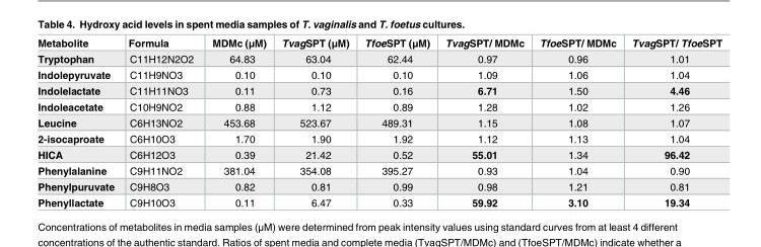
<table><thead><tr><td>Metabolite</td><td>Formula</td><td>MDMc (μM)</td><td>TvagSPT (μM)</td><td>TfoeSPT (μM)</td><td>TvagSPT/ MDMc</td><td>TfoeSPT/ MDMc</td><td>TvagSPT/ TfoeSPT</td></tr></thead><tbody><tr><td>Tryptophan</td><td>C11H12N2O2</td><td>64.83</td><td>63.04</td><td>62.44</td><td>0.97</td><td>0.96</td><td>1.01</td></tr><tr><td>Indolepyruvate</td><td>C11H9NO3</td><td>0.10</td><td>0.10</td><td>0.10</td><td>1.09</td><td>1.06</td><td>1.04</td></tr><tr><td>Indolelactate</td><td>C11H11NO3</td><td>0.11</td><td>0.73</td><td>0.16</td><td>6.71</td><td>1.50</td><td>4.46</td></tr><tr><td>Indoleacetate</td><td>C10H9NO2</td><td>0.88</td><td>1.12</td><td>0.89</td><td>1.28</td><td>1.02</td><td>1.26</td></tr><tr><td>Leucine</td><td>C6H13NO2</td><td>453.68</td><td>523.67</td><td>489.31</td><td>1.15</td><td>1.08</td><td>1.07</td></tr><tr><td>2-isocaproate</td><td>C6H10O3</td><td>1.70</td><td>1.90</td><td>1.92</td><td>1.12</td><td>1.13</td><td>1.04</td></tr><tr><td>HICA</td><td>C6H12O3</td><td>0.39</td><td>21.42</td><td>0.52</td><td>55.01</td><td>1.34</td><td>96.42</td></tr><tr><td>Phenylalanine</td><td>C9H11NO2</td><td>381.04</td><td>354.08</td><td>395.27</td><td>0.93</td><td>1.04</td><td>0.90</td></tr><tr><td>Phenylpuruvate</td><td>C9H8O3</td><td>0.82</td><td>0.81</td><td>0.99</td><td>0.98</td><td>1.21</td><td>0.81</td></tr><tr><td>Phenyllactate</td><td>C9H10O3</td><td>0.11</td><td>6.47</td><td>0.33</td><td>59.92</td><td>3.10</td><td>19.34</td></tr></tbody></table>